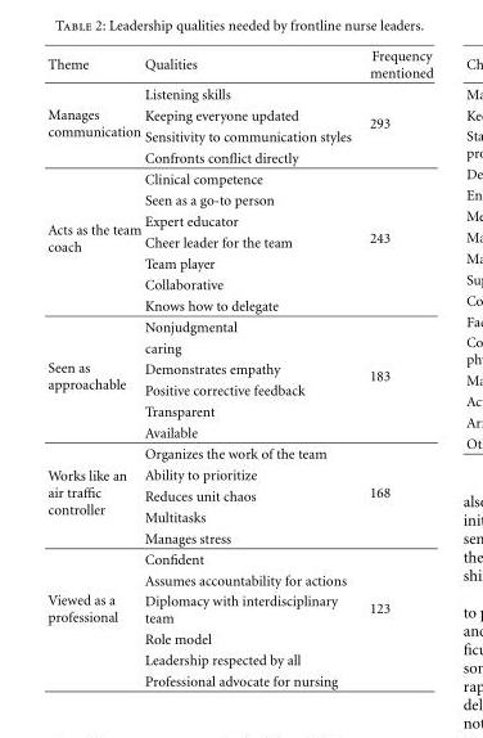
<table><thead><tr><td>Theme</td><td>Qualities</td><td>Frequency mentioned</td></tr></thead><tbody><tr><td rowspan="4">Manages communication</td><td>Listening skills</td><td rowspan="4">293</td></tr><tr><td>Keeping everyone updated</td></tr><tr><td>Sensitivity to communication styles</td></tr><tr><td>Confronts conflict directly</td></tr><tr><td rowspan="7">Acts as the team coach</td><td>Clinical competence</td><td rowspan="7">243</td></tr><tr><td>Seen as a go-to person</td></tr><tr><td>Expert educator</td></tr><tr><td>Cheer leader for the team</td></tr><tr><td>Team player</td></tr><tr><td>Collaborative</td></tr><tr><td>Knows how to delegate</td></tr><tr><td rowspan="6">Seen as approachable</td><td>Nonjudgmental</td><td rowspan="6">183</td></tr><tr><td>caring</td></tr><tr><td>Demonstrates empathy</td></tr><tr><td>Positive corrective feedback</td></tr><tr><td>Transparent</td></tr><tr><td>Available</td></tr><tr><td rowspan="5">Works like an air traffic controller</td><td>Organizes the work of the team</td><td rowspan="5">168</td></tr><tr><td>Ability to prioritize</td></tr><tr><td>Reduces unit chaos</td></tr><tr><td>Multitasks</td></tr><tr><td>Manages stress</td></tr><tr><td rowspan="6">Viewed as a professional</td><td>Confident</td><td rowspan="6">123</td></tr><tr><td>Assumes accountability for actions</td></tr><tr><td>Diplomacy with interdisciplinary team</td></tr><tr><td>Role model</td></tr><tr><td>Leadership respected by all</td></tr><tr><td>Professional advocate for nursing</td></tr></tbody></table>